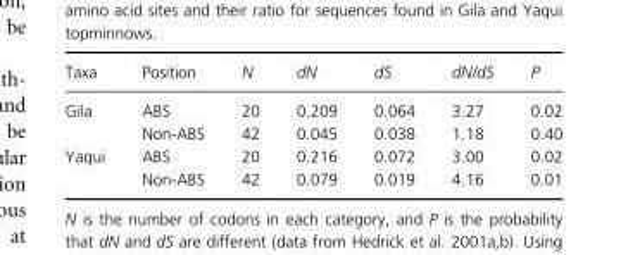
<table><thead><tr><td>Taxa</td><td>Position</td><td>N</td><td>dN</td><td>dS</td><td>dN/dS</td><td>P</td></tr></thead><tbody><tr><td rowspan="2">Gila</td><td>ABS</td><td>20</td><td>0.209</td><td>0.064</td><td>3.27</td><td>0.02</td></tr><tr><td>Non-ABS</td><td>42</td><td>0.045</td><td>0.038</td><td>1.18</td><td>0.40</td></tr><tr><td rowspan="2">Yaqui</td><td>ABS</td><td>20</td><td>0.216</td><td>0.072</td><td>3.00</td><td>0.02</td></tr><tr><td>Non-ABS</td><td>42</td><td>0.079</td><td>0.019</td><td>4.16</td><td>0.01</td></tr></tbody></table>